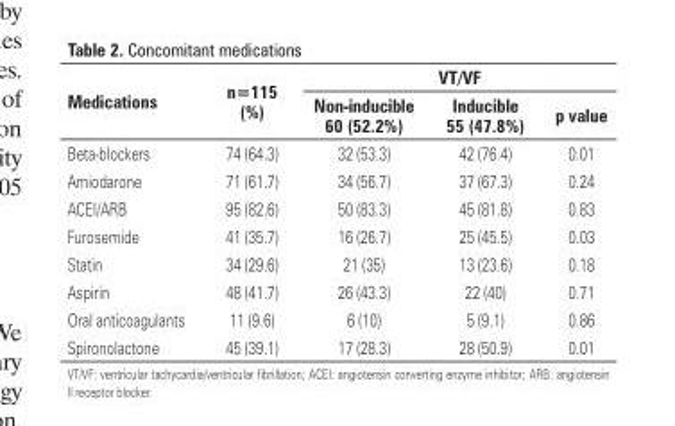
<table><thead><tr><td rowspan="2">Medications</td><td rowspan="2">n=115 (%)</td><td colspan="3">VT/VF</td></tr><tr><td>Non-inducible 60 (52.2%)</td><td>Inducible 55 (47.8%)</td><td>p value</td></tr></thead><tbody><tr><td>Beta-blockers</td><td>74 (64.3)</td><td>32 (53.3)</td><td>42 (76.4)</td><td>0.01</td></tr><tr><td>Amiodarone</td><td>71 (61.7)</td><td>34 (56.7)</td><td>37 (67.3)</td><td>0.24</td></tr><tr><td>ACEI/ARB</td><td>95 (82.6)</td><td>50 (83.3)</td><td>45 (81.8)</td><td>0.83</td></tr><tr><td>Furosemide</td><td>41 (35.7)</td><td>16 (26.7)</td><td>25 (45.5)</td><td>0.03</td></tr><tr><td>Statin</td><td>34 (29.6)</td><td>21 (35)</td><td>13 (23.6)</td><td>0.18</td></tr><tr><td>Aspirin</td><td>48 (41.7)</td><td>26 (43.3)</td><td>22 (40)</td><td>0.71</td></tr><tr><td>Oral anticoagulants</td><td>11 (9.6)</td><td>6 (10)</td><td>5 (9.1)</td><td>0.86</td></tr><tr><td>Spironolactone</td><td>45 (39.1)</td><td>17 (28.3)</td><td>28 (50.9)</td><td>0.01</td></tr></tbody></table>